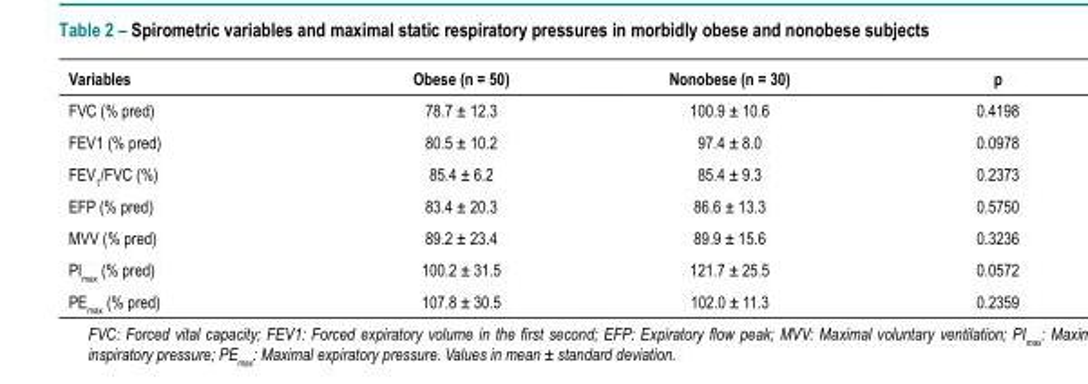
<table><thead><tr><td>Variables</td><td>Obese (n = 50)</td><td>Nonobese (n = 30)</td><td>p</td></tr></thead><tbody><tr><td>FVC (% pred)</td><td>78.7 ± 12.3</td><td>100.9 ± 10.6</td><td>0.4198</td></tr><tr><td>FEV1 (% pred)</td><td>80.5 ± 10.2</td><td>97.4 ± 8.0</td><td>0.0978</td></tr><tr><td>FEV<sub>1</sub>/FVC (%)</td><td>85.4 ± 6.2</td><td>85.4 ± 9.3</td><td>0.2373</td></tr><tr><td>EFP (% pred)</td><td>83.4 ± 20.3</td><td>86.6 ± 13.3</td><td>0.5750</td></tr><tr><td>MVV (% pred)</td><td>89.2 ± 23.4</td><td>89.9 ± 15.6</td><td>0.3236</td></tr><tr><td>PI<sub>max</sub> (% pred)</td><td>100.2 ± 31.5</td><td>121.7 ± 25.5</td><td>0.0572</td></tr><tr><td>PE<sub>max</sub> (% pred)</td><td>107.8 ± 30.5</td><td>102.0 ± 11.3</td><td>0.2359</td></tr></tbody></table>